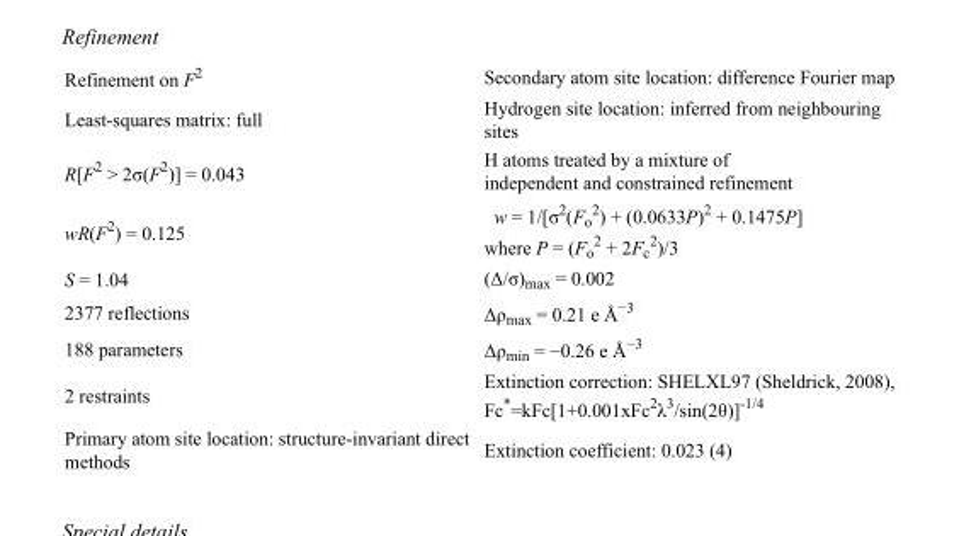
<table><tbody><tr><td>Refinement on F<sup>2</sup></td><td>Secondary atom site location: difference Fourier map</td></tr><tr><td>Least-squares matrix: full</td><td>Hydrogen site location: inferred from neighbouring sites</td></tr><tr><td>R[F<sup>2</sup> &gt; 2σ(F<sup>2</sup>)] = 0.043</td><td>H atoms treated by a mixture of independent and constrained refinement</td></tr><tr><td>wR(F<sup>2</sup>) = 0.125</td><td>w = 1/[σ<sup>2</sup>(F<sub>o</sub> <sup>2</sup>) + (0.0633P)<sup>2</sup> + 0.1475P] where P = (F<sub>o</sub> <sup>2</sup> + 2F<sub>c</sub> <sup>2</sup>)/3</td></tr><tr><td>S = 1.04</td><td>(Δ/σ)<sub>max</sub> = 0.002</td></tr><tr><td>2377 reflections</td><td>Δρ<sub>max</sub> = 0.21 e Å<sup>−3</sup></td></tr><tr><td>188 parameters</td><td>Δρ<sub>min</sub> = −0.26 e Å<sup>−3</sup></td></tr><tr><td>2 restraints</td><td>Extinction correction: SHELXL97 (Sheldrick, 2008), Fc*=kFc[1+0.001xFc<sup>2</sup>λ<sup>3</sup>/sin(2θ)]<sup>-1/4</sup></td></tr><tr><td>Primary atom site location: structure-invariant direct methods</td><td>Extinction coefficient: 0.023 (4)</td></tr></tbody></table>